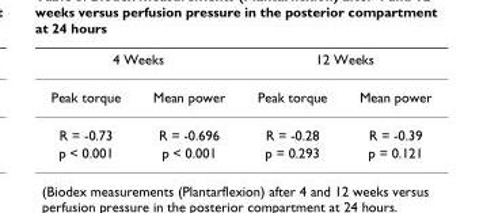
<table><thead><tr><td colspan="2">4 Weeks</td><td colspan="2">12 Weeks</td></tr><tr><td>Peak torque</td><td>Mean power</td><td>Peak torque</td><td>Mean power</td></tr></thead><tbody><tr><td>R = -0.73</td><td>R = -0.696</td><td>R = -0.28</td><td>R = -0.39</td></tr><tr><td>p &lt; 0.001</td><td>p &lt; 0.001</td><td>p = 0.293</td><td>p = 0.121</td></tr></tbody></table>